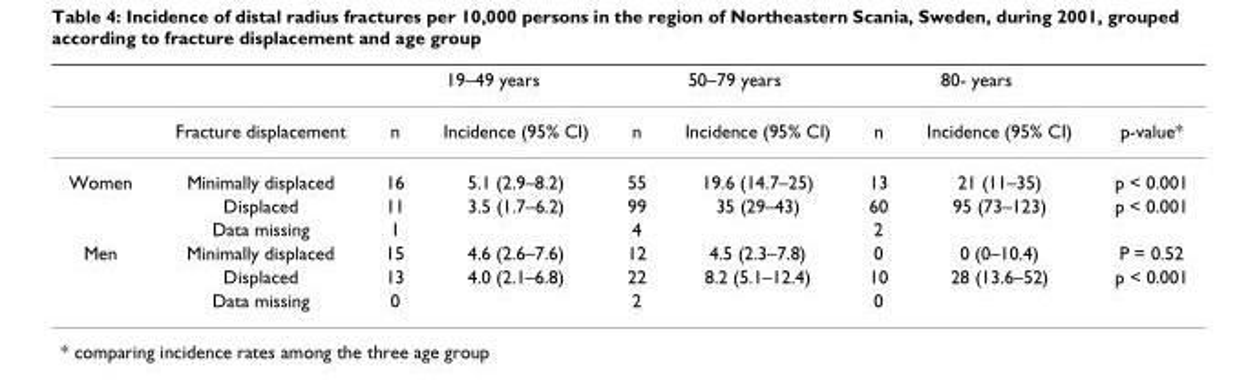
<table><thead><tr><td rowspan="2"></td><td rowspan="2">Fracture displacement</td><td colspan="2">19–49 years</td><td colspan="2">50–79 years</td><td colspan="2">80- years</td><td rowspan="2">p-value*</td></tr><tr><td>n</td><td>Incidence (95% CI)</td><td>n</td><td>Incidence (95% CI)</td><td>n</td><td>Incidence (95% CI)</td></tr></thead><tbody><tr><td rowspan="3">Women</td><td>Minimally displaced</td><td>16</td><td>5.1 (2.9–8.2)</td><td>55</td><td>19.6 (14.7–25)</td><td>13</td><td>21 (11–35)</td><td>p &lt; 0.001</td></tr><tr><td>Displaced</td><td>11</td><td>3.5 (1.7–6.2)</td><td>99</td><td>35 (29–43)</td><td>60</td><td>95 (73–123)</td><td>p &lt; 0.001</td></tr><tr><td>Data missing</td><td>1</td><td></td><td>4</td><td></td><td>2</td><td></td><td></td></tr><tr><td rowspan="3">Men</td><td>Minimally displaced</td><td>15</td><td>4.6 (2.6–7.6)</td><td>12</td><td>4.5 (2.3–7.8)</td><td>0</td><td>0 (0–10.4)</td><td>P = 0.52</td></tr><tr><td>Displaced</td><td>13</td><td>4.0 (2.1–6.8)</td><td>22</td><td>8.2 (5.1–12.4)</td><td>10</td><td>28 (13.6–52)</td><td>p &lt; 0.001</td></tr><tr><td>Data missing</td><td>0</td><td></td><td>2</td><td></td><td>0</td><td></td><td></td></tr></tbody></table>